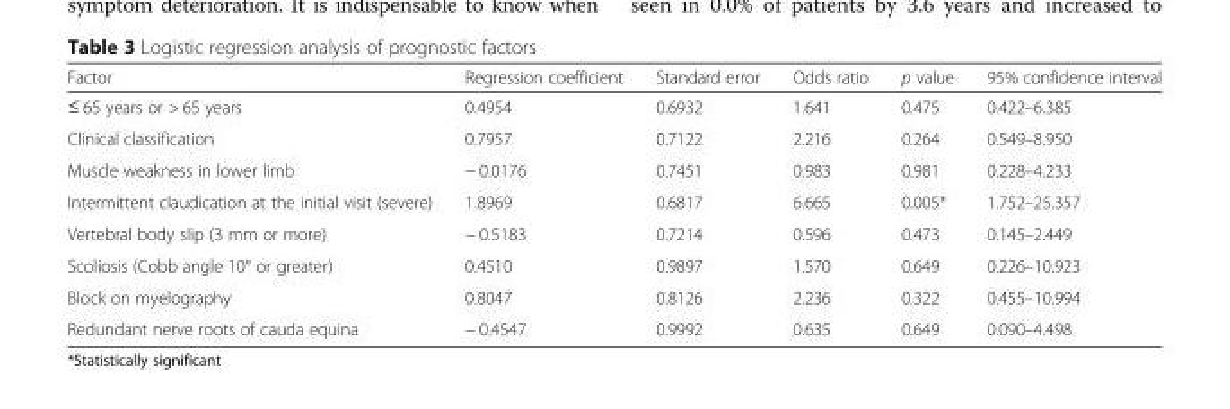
<table><thead><tr><td>Factor</td><td>Regression coefficient</td><td>Standard error</td><td>Odds ratio</td><td>p value</td><td>95% confidence interval</td></tr></thead><tbody><tr><td>≤ 65 years or &gt; 65 years</td><td>0.4954</td><td>0.6932</td><td>1.641</td><td>0.475</td><td>0.422–6.385</td></tr><tr><td>Clinical classification</td><td>0.7957</td><td>0.7122</td><td>2.216</td><td>0.264</td><td>0.549–8.950</td></tr><tr><td>Muscle weakness in lower limb</td><td>− 0.0176</td><td>0.7451</td><td>0.983</td><td>0.981</td><td>0.228–4.233</td></tr><tr><td>Intermittent claudication at the initial visit (severe)</td><td>1.8969</td><td>0.6817</td><td>6.665</td><td>0.005*</td><td>1.752–25.357</td></tr><tr><td>Vertebral body slip (3 mm or more)</td><td>− 0.5183</td><td>0.7214</td><td>0.596</td><td>0.473</td><td>0.145–2.449</td></tr><tr><td>Scoliosis (Cobb angle 10° or greater)</td><td>0.4510</td><td>0.9897</td><td>1.570</td><td>0.649</td><td>0.226–10.923</td></tr><tr><td>Block on myelography</td><td>0.8047</td><td>0.8126</td><td>2.236</td><td>0.322</td><td>0.455–10.994</td></tr><tr><td>Redundant nerve roots of cauda equina</td><td>− 0.4547</td><td>0.9992</td><td>0.635</td><td>0.649</td><td>0.090–4.498</td></tr></tbody></table>